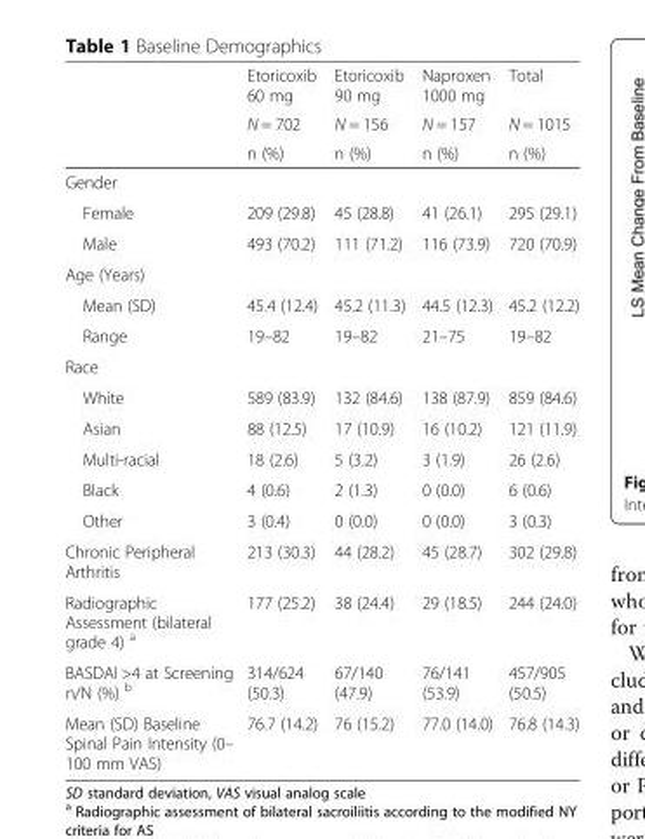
<table><thead><tr><td rowspan="3"></td><td rowspan="3">Etoricoxib 60 mg N = 702 n (%)</td><td rowspan="3">Etoricoxib 90 mg N = 156 n (%)</td><td rowspan="3">Naproxen 1000 mg N = 157 n (%)</td><td rowspan="3">Total N = 1015 n (%)</td></tr><tr></tr><tr></tr></thead><tbody><tr><td colspan="5">Gender</td></tr><tr><td>Female</td><td>209 (29.8)</td><td>45 (28.8)</td><td>41 (26.1)</td><td>295 (29.1)</td></tr><tr><td>Male</td><td>493 (70.2)</td><td>111 (71.2)</td><td>116 (73.9)</td><td>720 (70.9)</td></tr><tr><td colspan="5">Age (Years)</td></tr><tr><td>Mean (SD)</td><td>45.4 (12.4)</td><td>45.2 (11.3)</td><td>44.5 (12.3)</td><td>45.2 (12.2)</td></tr><tr><td>Range</td><td>19–82</td><td>19–82</td><td>21–75</td><td>19–82</td></tr><tr><td colspan="5">Race</td></tr><tr><td>White</td><td>589 (83.9)</td><td>132 (84.6)</td><td>138 (87.9)</td><td>859 (84.6)</td></tr><tr><td>Asian</td><td>88 (12.5)</td><td>17 (10.9)</td><td>16 (10.2)</td><td>121 (11.9)</td></tr><tr><td>Multi-racial</td><td>18 (2.6)</td><td>5 (3.2)</td><td>3 (1.9)</td><td>26 (2.6)</td></tr><tr><td>Black</td><td>4 (0.6)</td><td>2 (1.3)</td><td>0 (0.0)</td><td>6 (0.6)</td></tr><tr><td>Other</td><td>3 (0.4)</td><td>0 (0.0)</td><td>0 (0.0)</td><td>3 (0.3)</td></tr><tr><td>Chronic Peripheral Arthritis</td><td>213 (30.3)</td><td>44 (28.2)</td><td>45 (28.7)</td><td>302 (29.8)</td></tr><tr><td>Radiographic Assessment (bilateral grade 4) <sup>a</sup></td><td>177 (25.2)</td><td>38 (24.4)</td><td>29 (18.5)</td><td>244 (24.0)</td></tr><tr><td>BASDAI &gt;4 at Screening n/N (%) <sup>b</sup></td><td>314/624 (50.3)</td><td>67/140 (47.9)</td><td>76/141 (53.9)</td><td>457/905 (50.5)</td></tr><tr><td>Mean (SD) Baseline Spinal Pain Intensity (0– 100 mm VAS)</td><td>76.7 (14.2)</td><td>76 (15.2)</td><td>77.0 (14.0)</td><td>76.8 (14.3)</td></tr></tbody></table>